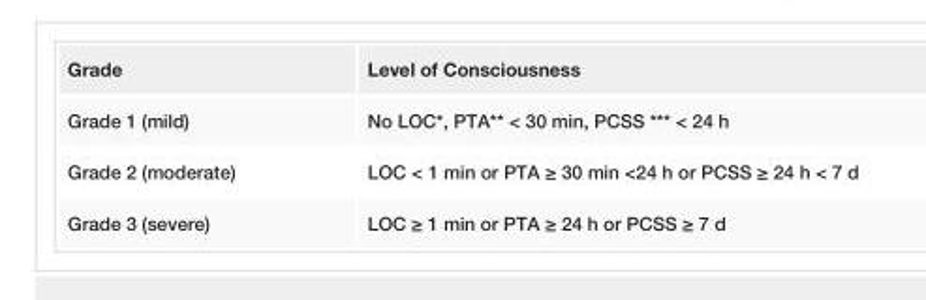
<table><tbody><tr><td>Grade</td><td>Level of Consciousness</td></tr><tr><td>Grade 1 (mild)</td><td>No LOC*, PTA** &lt; 30 min, PCSS *** &lt; 24 h</td></tr><tr><td>Grade 2 (moderate)</td><td>LOC &lt; 1 min or PTA ≥ 30 min &lt;24 h or PCSS ≥ 24 h &lt; 7 d</td></tr><tr><td>Grade 3 (severe)</td><td>LOC ≥ 1 min or PTA ≥ 24 h or PCSS ≥ 7 d</td></tr></tbody></table>